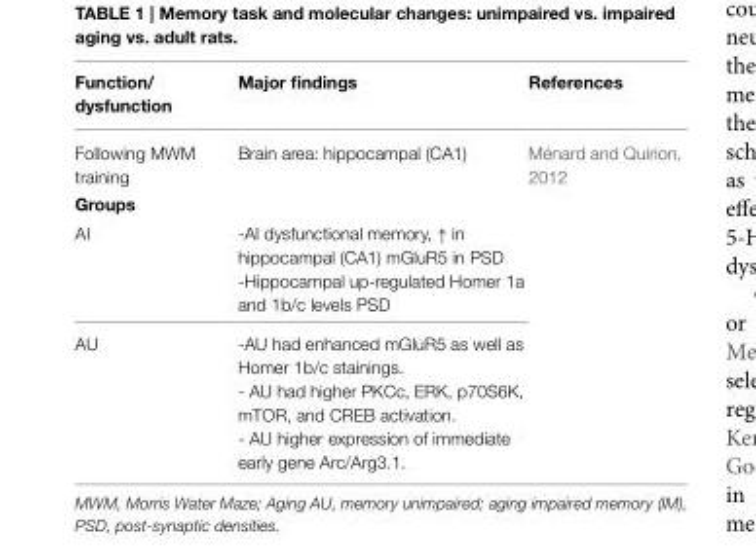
<table><thead><tr><td>Function/ dysfunction</td><td>Major findings</td><td>References</td></tr></thead><tbody><tr><td>Following MWM training</td><td>Brain area: hippocampal (CA1)</td><td>Ménard and Quirion, 2012</td></tr><tr><td colspan="3">Groups</td></tr><tr><td>AI</td><td>-AI dysfunctional memory, ↑ in hippocampal (CA1) mGluR5 in PSD -Hippocampal up-regulated Homer 1a and 1b/c levels PSD</td><td></td></tr><tr><td>AU</td><td>-AU had enhanced mGluR5 as well as Homer 1b/c stainings. - AU had higher PKCc, ERK, p70S6K, mTOR, and CREB activation. - AU higher expression of immediate early gene Arc/Arg3.1.</td><td></td></tr></tbody></table>